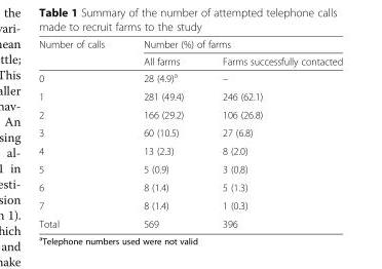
<table><thead><tr><td rowspan="2">Number of calls</td><td colspan="2">Number (%) of farms</td></tr><tr><td>All farms</td><td>Farms successfully contacted</td></tr></thead><tbody><tr><td>0</td><td>28 (4.9)<sup>a</sup></td><td>–</td></tr><tr><td>1</td><td>281 (49.4)</td><td>246 (62.1)</td></tr><tr><td>2</td><td>166 (29.2)</td><td>106 (26.8)</td></tr><tr><td>3</td><td>60 (10.5)</td><td>27 (6.8)</td></tr><tr><td>4</td><td>13 (2.3)</td><td>8 (2.0)</td></tr><tr><td>5</td><td>5 (0.9)</td><td>3 (0.8)</td></tr><tr><td>6</td><td>8 (1.4)</td><td>5 (1.3)</td></tr><tr><td>7</td><td>8 (1.4)</td><td>1 (0.3)</td></tr><tr><td>Total</td><td>569</td><td>396</td></tr></tbody></table>